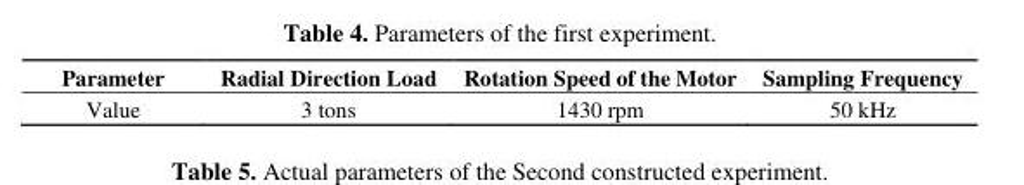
<table><thead><tr><td>Parameter</td><td>Radial Direction Load</td><td>Rotation Speed of the Motor</td><td>Sampling Frequency</td></tr></thead><tbody><tr><td>Value</td><td>3 tons</td><td>1430 rpm</td><td>50 kHz</td></tr></tbody></table>